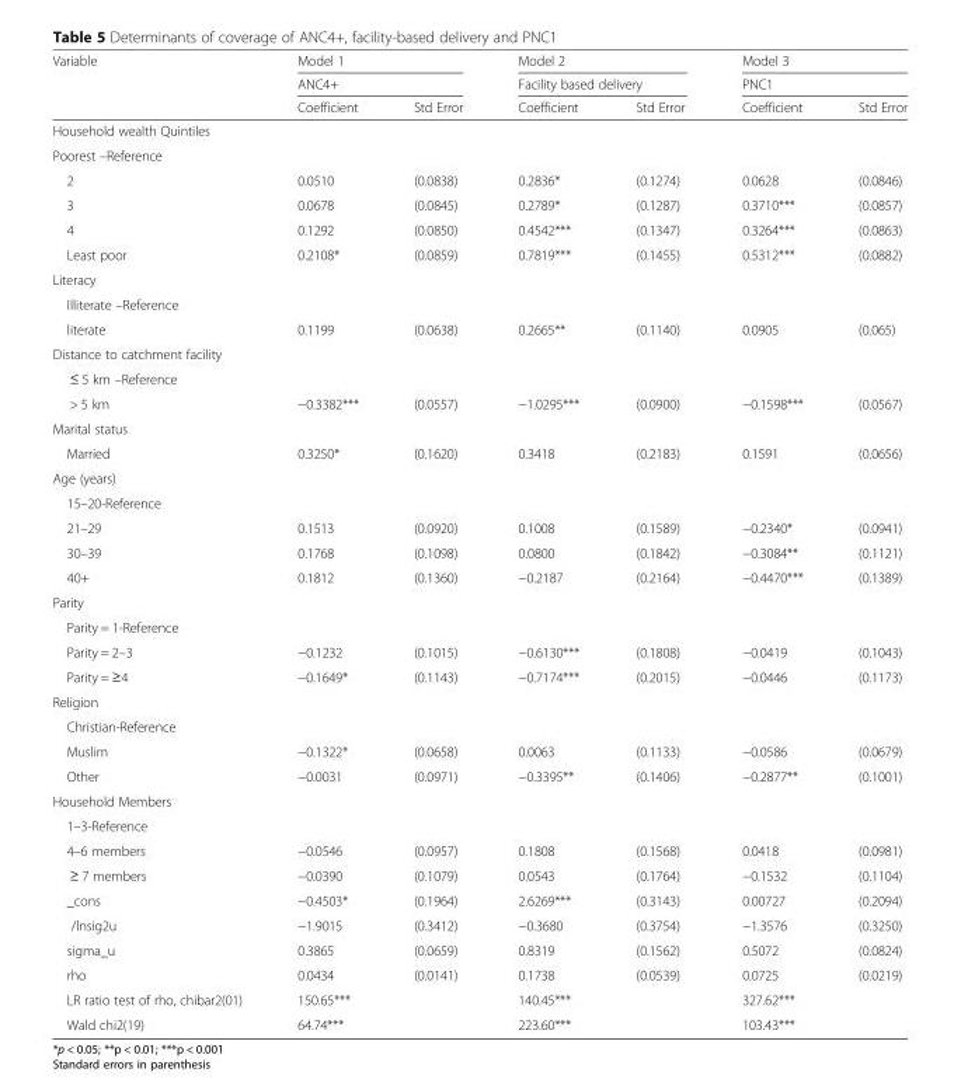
<table><thead><tr><td rowspan="3">Variable</td><td rowspan="2" colspan="2">Model 1 ANC4+</td><td rowspan="2" colspan="2">Model 2 Facility based delivery</td><td rowspan="2" colspan="2">Model 3 PNC1</td></tr><tr></tr><tr><td>Coefficient</td><td>Std Error</td><td>Coefficient</td><td>Std Error</td><td>Coefficient</td><td>Std Error</td></tr></thead><tbody><tr><td colspan="7">Household wealth Quintiles</td></tr><tr><td colspan="7">Poorest –Reference</td></tr><tr><td>2</td><td>0.0510</td><td>(0.0838)</td><td>0.2836*</td><td>(0.1274)</td><td>0.0628</td><td>(0.0846)</td></tr><tr><td>3</td><td>0.0678</td><td>(0.0845)</td><td>0.2789*</td><td>(0.1287)</td><td>0.3710***</td><td>(0.0857)</td></tr><tr><td>4</td><td>0.1292</td><td>(0.0850)</td><td>0.4542***</td><td>(0.1347)</td><td>0.3264***</td><td>(0.0863)</td></tr><tr><td>Least poor</td><td>0.2108*</td><td>(0.0859)</td><td>0.7819***</td><td>(0.1455)</td><td>0.5312***</td><td>(0.0882)</td></tr><tr><td colspan="7">Literacy</td></tr><tr><td colspan="7">Illiterate –Reference</td></tr><tr><td>literate</td><td>0.1199</td><td>(0.0638)</td><td>0.2665**</td><td>(0.1140)</td><td>0.0905</td><td>(0.065)</td></tr><tr><td colspan="7">Distance to catchment facility</td></tr><tr><td colspan="7">≤ 5 km –Reference</td></tr><tr><td>&gt; 5 km</td><td>−0.3382***</td><td>(0.0557)</td><td>−1.0295***</td><td>(0.0900)</td><td>−0.1598***</td><td>(0.0567)</td></tr><tr><td colspan="7">Marital status</td></tr><tr><td>Married</td><td>0.3250*</td><td>(0.1620)</td><td>0.3418</td><td>(0.2183)</td><td>0.1591</td><td>(0.0656)</td></tr><tr><td colspan="7">Age (years)</td></tr><tr><td colspan="7">15–20-Reference</td></tr><tr><td>21–29</td><td>0.1513</td><td>(0.0920)</td><td>0.1008</td><td>(0.1589)</td><td>−0.2340*</td><td>(0.0941)</td></tr><tr><td>30–39</td><td>0.1768</td><td>(0.1098)</td><td>0.0800</td><td>(0.1842)</td><td>−0.3084**</td><td>(0.1121)</td></tr><tr><td>40+</td><td>0.1812</td><td>(0.1360)</td><td>−0.2187</td><td>(0.2164)</td><td>−0.4470***</td><td>(0.1389)</td></tr><tr><td colspan="7">Parity</td></tr><tr><td colspan="7">Parity = 1-Reference</td></tr><tr><td>Parity = 2–3</td><td>−0.1232</td><td>(0.1015)</td><td>−0.6130***</td><td>(0.1808)</td><td>−0.0419</td><td>(0.1043)</td></tr><tr><td>Parity = ≥4</td><td>−0.1649*</td><td>(0.1143)</td><td>−0.7174***</td><td>(0.2015)</td><td>−0.0446</td><td>(0.1173)</td></tr><tr><td colspan="7">Religion</td></tr><tr><td colspan="7">Christian-Reference</td></tr><tr><td>Muslim</td><td>−0.1322*</td><td>(0.0658)</td><td>0.0063</td><td>(0.1133)</td><td>−0.0586</td><td>(0.0679)</td></tr><tr><td>Other</td><td>−0.0031</td><td>(0.0971)</td><td>−0.3395**</td><td>(0.1406)</td><td>−0.2877**</td><td>(0.1001)</td></tr><tr><td colspan="7">Household Members</td></tr><tr><td colspan="7">1–3-Reference</td></tr><tr><td>4–6 members</td><td>−0.0546</td><td>(0.0957)</td><td>0.1808</td><td>(0.1568)</td><td>0.0418</td><td>(0.0981)</td></tr><tr><td>≥ 7 members</td><td>−0.0390</td><td>(0.1079)</td><td>0.0543</td><td>(0.1764)</td><td>−0.1532</td><td>(0.1104)</td></tr><tr><td>_cons</td><td>−0.4503*</td><td>(0.1964)</td><td>2.6269***</td><td>(0.3143)</td><td>0.00727</td><td>(0.2094)</td></tr><tr><td>/lnsig2u</td><td>−1.9015</td><td>(0.3412)</td><td>−0.3680</td><td>(0.3754)</td><td>−1.3576</td><td>(0.3250)</td></tr><tr><td>sigma_u</td><td>0.3865</td><td>(0.0659)</td><td>0.8319</td><td>(0.1562)</td><td>0.5072</td><td>(0.0824)</td></tr><tr><td>rho</td><td>0.0434</td><td>(0.0141)</td><td>0.1738</td><td>(0.0539)</td><td>0.0725</td><td>(0.0219)</td></tr><tr><td>LR ratio test of rho, chibar2(01)</td><td>150.65***</td><td></td><td>140.45***</td><td></td><td>327.62***</td><td></td></tr><tr><td>Wald chi2(19)</td><td>64.74***</td><td></td><td>223.60***</td><td></td><td>103.43***</td><td></td></tr></tbody></table>